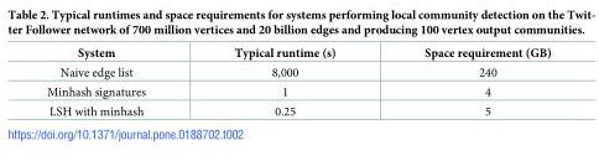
<table><thead><tr><td>System</td><td>Typical runtime (s)</td><td>Space requirement (GB)</td></tr></thead><tbody><tr><td>Naive edge list</td><td>8,000</td><td>240</td></tr><tr><td>Minhash signatures</td><td>1</td><td>4</td></tr><tr><td>LSH with minhash</td><td>0.25</td><td>5</td></tr></tbody></table>